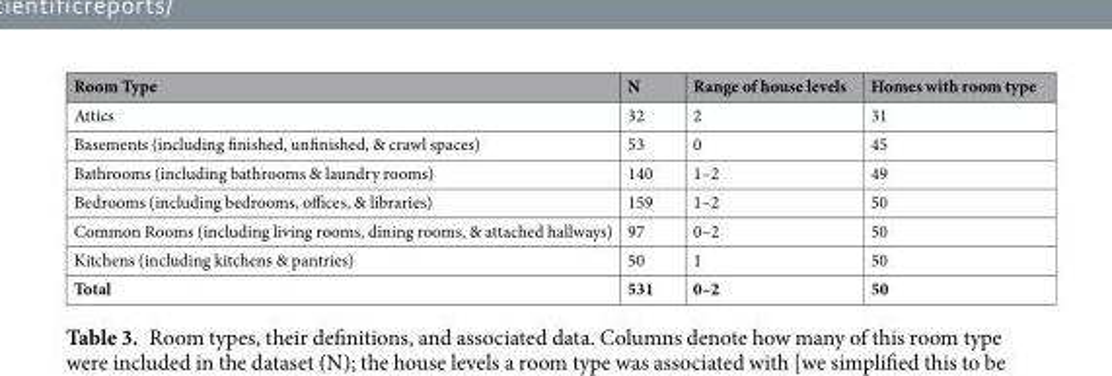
<table><thead><tr><td>Room Type</td><td>N</td><td>Range of house levels</td><td>Homes with room type</td></tr></thead><tbody><tr><td>Attics</td><td>32</td><td>2</td><td>31</td></tr><tr><td>Basements (including finished, unfinished, &amp; crawl spaces)</td><td>53</td><td>0</td><td>45</td></tr><tr><td>Bathrooms (including bathrooms &amp; laundry rooms)</td><td>140</td><td>1–2</td><td>49</td></tr><tr><td>Bedrooms (including bedrooms, offices, &amp; libraries)</td><td>159</td><td>1–2</td><td>50</td></tr><tr><td>Common Rooms (including living rooms, dining rooms, &amp; attached hallways)</td><td>97</td><td>0–2</td><td>50</td></tr><tr><td>Kitchens (including kitchens &amp; pantries)</td><td>50</td><td>1</td><td>50</td></tr><tr><td>Total</td><td>531</td><td>0–2</td><td>50</td></tr></tbody></table>